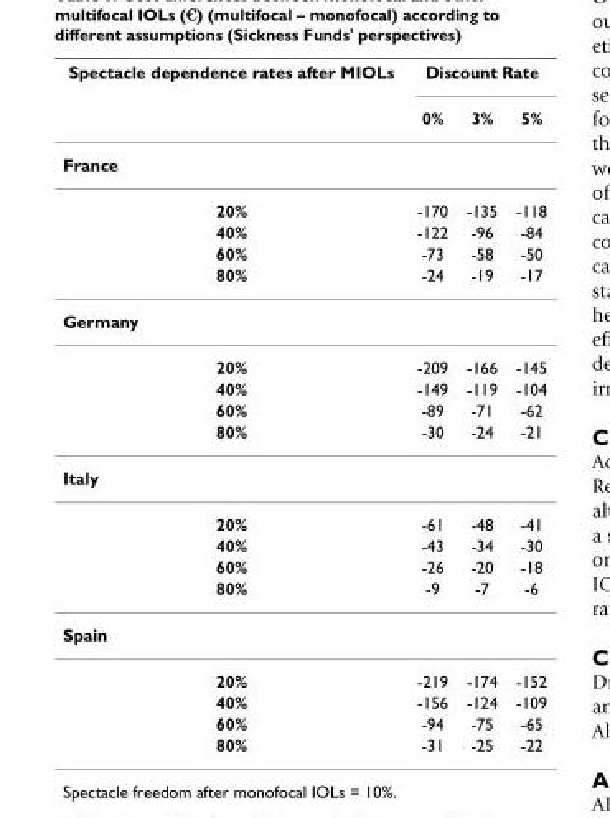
<table><thead><tr><td rowspan="2">Spectacle dependence rates after MIOLs</td><td colspan="3">Discount Rate</td></tr><tr><td>0%</td><td>3%</td><td>5%</td></tr></thead><tbody><tr><td colspan="4">France</td></tr><tr><td>20%</td><td>-170</td><td>-135</td><td>-118</td></tr><tr><td>40%</td><td>-122</td><td>-96</td><td>-84</td></tr><tr><td>60%</td><td>-73</td><td>-58</td><td>-50</td></tr><tr><td>80%</td><td>-24</td><td>-19</td><td>-17</td></tr><tr><td colspan="4">Germany</td></tr><tr><td>20%</td><td>-209</td><td>-166</td><td>-145</td></tr><tr><td>40%</td><td>-149</td><td>-119</td><td>-104</td></tr><tr><td>60%</td><td>-89</td><td>-71</td><td>-62</td></tr><tr><td>80%</td><td>-30</td><td>-24</td><td>-21</td></tr><tr><td colspan="4">Italy</td></tr><tr><td>20%</td><td>-61</td><td>-48</td><td>-41</td></tr><tr><td>40%</td><td>-43</td><td>-34</td><td>-30</td></tr><tr><td>60%</td><td>-26</td><td>-20</td><td>-18</td></tr><tr><td>80%</td><td>-9</td><td>-7</td><td>-6</td></tr><tr><td colspan="4">Spain</td></tr><tr><td>20%</td><td>-219</td><td>-174</td><td>-152</td></tr><tr><td>40%</td><td>-156</td><td>-124</td><td>-109</td></tr><tr><td>60%</td><td>-94</td><td>-75</td><td>-65</td></tr><tr><td>80%</td><td>-31</td><td>-25</td><td>-22</td></tr></tbody></table>